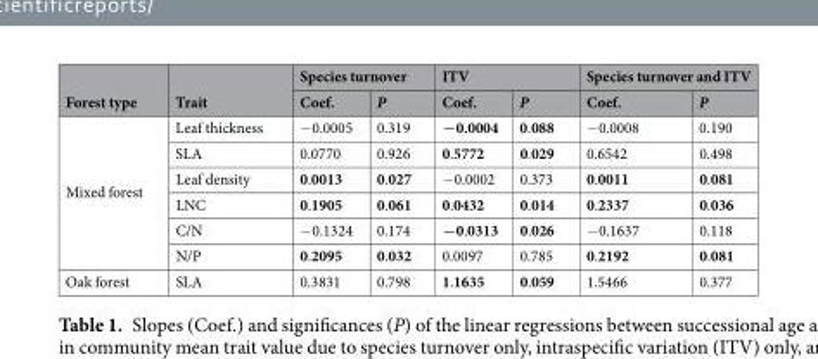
<table><thead><tr><td rowspan="2">Forest type</td><td rowspan="2">Trait</td><td colspan="2">Species turnover</td><td colspan="2">ITV</td><td colspan="2">Species turnover and ITV</td></tr><tr><td>Coef.</td><td>P</td><td>Coef.</td><td>P</td><td>Coef.</td><td>P</td></tr></thead><tbody><tr><td rowspan="6">Mixed forest</td><td>Leaf thickness</td><td>−0.0005</td><td>0.319</td><td>−0.0004</td><td>0.088</td><td>−0.0008</td><td>0.190</td></tr><tr><td>SLA</td><td>0.0770</td><td>0.926</td><td>0.5772</td><td>0.029</td><td>0.6542</td><td>0.498</td></tr><tr><td>Leaf density</td><td>0.0013</td><td>0.027</td><td>−0.0002</td><td>0.373</td><td>0.0011</td><td>0.081</td></tr><tr><td>LNC</td><td>0.1905</td><td>0.061</td><td>0.0432</td><td>0.014</td><td>0.2337</td><td>0.036</td></tr><tr><td>C/N</td><td>−0.1324</td><td>0.174</td><td>−0.0313</td><td>0.026</td><td>−0.1637</td><td>0.118</td></tr><tr><td>N/P</td><td>0.2095</td><td>0.032</td><td>0.0097</td><td>0.785</td><td>0.2192</td><td>0.081</td></tr><tr><td>Oak forest</td><td>SLA</td><td>0.3831</td><td>0.798</td><td>1.1635</td><td>0.059</td><td>1.5466</td><td>0.377</td></tr></tbody></table>